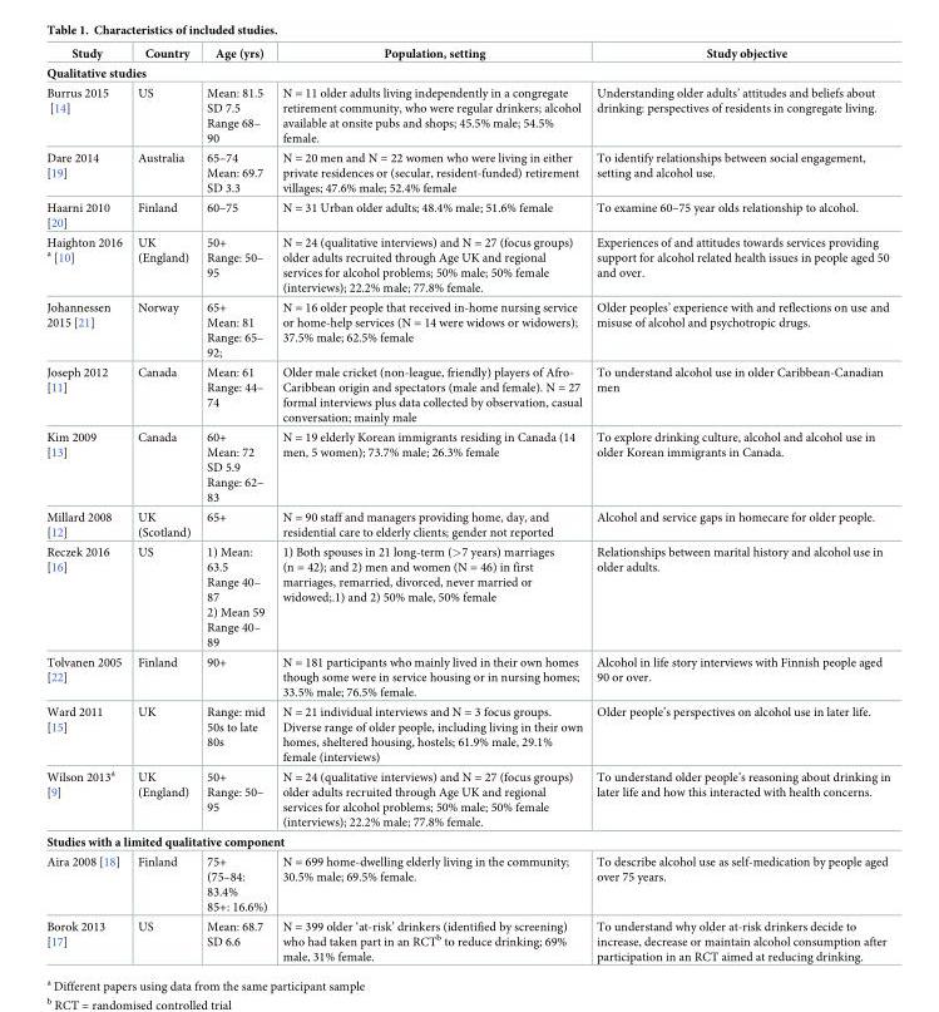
<table><thead><tr><td>Study</td><td>Country</td><td>Age (yrs)</td><td>Population, setting</td><td>Study objective</td></tr></thead><tbody><tr><td colspan="5">Qualitative studies</td></tr><tr><td>Burrus 2015 [14]</td><td>US</td><td>Mean: 81.5 SD 7.5 Range 68– 90</td><td>N = 11 older adults living independently in a congregate retirement community, who were regular drinkers; alcohol available at onsite pubs and shops; 45.5% male; 54.5% female.</td><td>Understanding older adults’ attitudes and beliefs about drinking: perspectives of residents in congregate living.</td></tr><tr><td>Dare 2014 [19]</td><td>Australia</td><td>65–74 Mean: 69.7 SD 3.3</td><td>N = 20 men and N = 22 women who were living in either private residences or (secular, resident-funded) retirement villages; 47.6% male; 52.4% female</td><td>To identify relationships between social engagement, setting and alcohol use.</td></tr><tr><td>Haarni 2010 [20]</td><td>Finland</td><td>60–75</td><td>N = 31 Urban older adults; 48.4% male; 51.6% female</td><td>To examine 60–75 year olds relationship to alcohol.</td></tr><tr><td>Haighton 2016 <sup>a</sup> [10]</td><td>UK (England)</td><td>50+ Range: 50– 95</td><td>N = 24 (qualitative interviews) and N = 27 (focus groups) older adults recruited through Age UK and regional services for alcohol problems; 50% male; 50% female (interviews); 22.2% male; 77.8% female.</td><td>Experiences of and attitudes towards services providing support for alcohol related health issues in people aged 50 and over.</td></tr><tr><td>Johannessen 2015 [21]</td><td>Norway</td><td>65+ Mean: 81 Range: 65– 92;</td><td>N = 16 older people that received in-home nursing service or home-help services (N = 14 were widows or widowers); 37.5% male; 62.5% female</td><td>Older peoples’ experience with and reflections on use and misuse of alcohol and psychotropic drugs.</td></tr><tr><td>Joseph 2012 [11]</td><td>Canada</td><td>Mean: 61 Range: 44– 74</td><td>Older male cricket (non-league, friendly) players of Afro- Caribbean origin and spectators (male and female). N = 27 formal interviews plus data collected by observation, casual conversation; mainly male</td><td>To understand alcohol use in older Caribbean-Canadian men</td></tr><tr><td>Kim 2009 [13]</td><td>Canada</td><td>60+ Mean: 72 SD 5.9 Range: 62– 83</td><td>N = 19 elderly Korean immigrants residing in Canada (14 men, 5 women); 73.7% male; 26.3% female</td><td>To explore drinking culture, alcohol and alcohol use in older Korean immigrants in Canada.</td></tr><tr><td>Millard 2008 [12]</td><td>UK (Scotland)</td><td>65+</td><td>N = 90 staff and managers providing home, day, and residential care to elderly clients; gender not reported</td><td>Alcohol and service gaps in homecare for older people.</td></tr><tr><td>Reczek 2016 [16]</td><td>US</td><td>1) Mean: 63.5 Range 40– 87 2) Mean 59 Range 40– 89</td><td>1) Both spouses in 21 long-term (&gt;7 years) marriages (n = 42); and 2) men and women (N = 46) in first marriages, remarried, divorced, never married or widowed;.1) and 2) 50% male, 50% female</td><td>Relationships between marital history and alcohol use in older adults.</td></tr><tr><td>Tolvanen 2005 [22]</td><td>Finland</td><td>90+</td><td>N = 181 participants who mainly lived in their own homes though some were in service housing or in nursing homes; 33.5% male; 76.5% female.</td><td>Alcohol in life story interviews with Finnish people aged 90 or over.</td></tr><tr><td>Ward 2011 [15]</td><td>UK</td><td>Range: mid 50s to late 80s</td><td>N = 21 individual interviews and N = 3 focus groups. Diverse range of older people, including living in their own homes, sheltered housing, hostels; 61.9% male, 29.1% female (interviews)</td><td>Older people’s perspectives on alcohol use in later life.</td></tr><tr><td>Wilson 2013<sup>a</sup> [9]</td><td>UK (England)</td><td>50+ Range: 50– 95</td><td>N = 24 (qualitative interviews) and N = 27 (focus groups) older adults recruited through Age UK and regional services for alcohol problems; 50% male; 50% female (interviews); 22.2% male; 77.8% female.</td><td>To understand older people’s reasoning about drinking in later life and how this interacted with health concerns.</td></tr><tr><td colspan="5">Studies with a limited qualitative component</td></tr><tr><td>Aira 2008 [18]</td><td>Finland</td><td>75+ (75–84: 83.4% 85+: 16.6%)</td><td>N = 699 home-dwelling elderly living in the community; 30.5% male; 69.5% female.</td><td>To describe alcohol use as self-medication by people aged over 75 years.</td></tr><tr><td>Borok 2013 [17]</td><td>US</td><td>Mean: 68.7 SD 6.6</td><td>N = 399 older ‘at-risk’ drinkers (identified by screening) who had taken part in an RCT<sup>b</sup> to reduce drinking; 69% male, 31% female.</td><td>To understand why older at-risk drinkers decide to increase, decrease or maintain alcohol consumption after participation in an RCT aimed at reducing drinking.</td></tr></tbody></table>